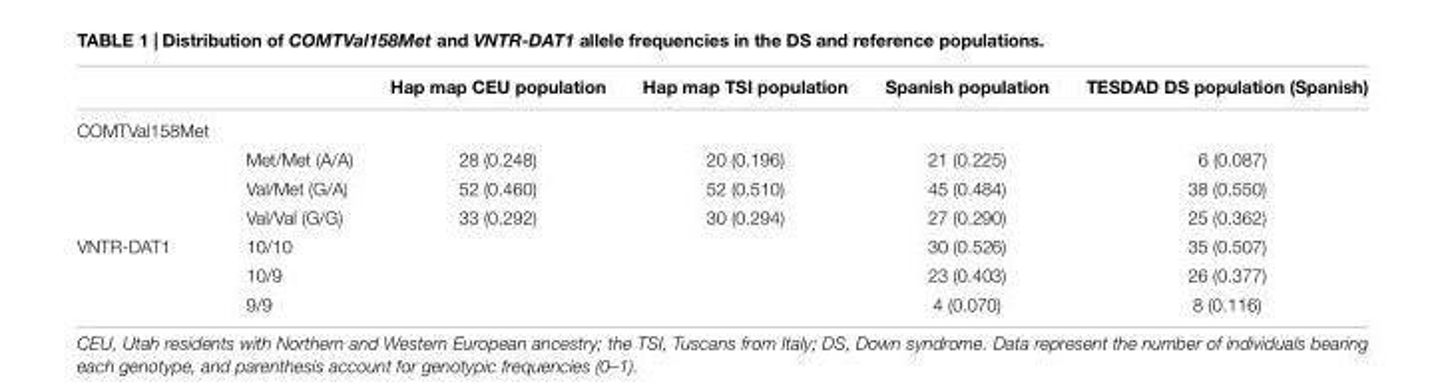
<table><thead><tr><td></td><td></td><td>Hap map CEU population</td><td>Hap map TSI population</td><td>Spanish population</td><td>TESDAD DS population (Spanish)</td></tr></thead><tbody><tr><td colspan="6">COMTVal158Met</td></tr><tr><td></td><td>Met/Met (A/A)</td><td>28 (0.248)</td><td>20 (0.196)</td><td>21 (0.225)</td><td>6 (0.087)</td></tr><tr><td></td><td>Val/Met (G/A)</td><td>52 (0.460)</td><td>52 (0.510)</td><td>45 (0.484)</td><td>38 (0.550)</td></tr><tr><td></td><td>Val/Val (G/G)</td><td>33 (0.292)</td><td>30 (0.294)</td><td>27 (0.290)</td><td>25 (0.362)</td></tr><tr><td rowspan="3">VNTR-DAT1</td><td>10/10</td><td></td><td></td><td>30 (0.526)</td><td>35 (0.507)</td></tr><tr><td>10/9</td><td></td><td></td><td>23 (0.403)</td><td>26 (0.377)</td></tr><tr><td>9/9</td><td></td><td></td><td>4 (0.070)</td><td>8 (0.116)</td></tr></tbody></table>